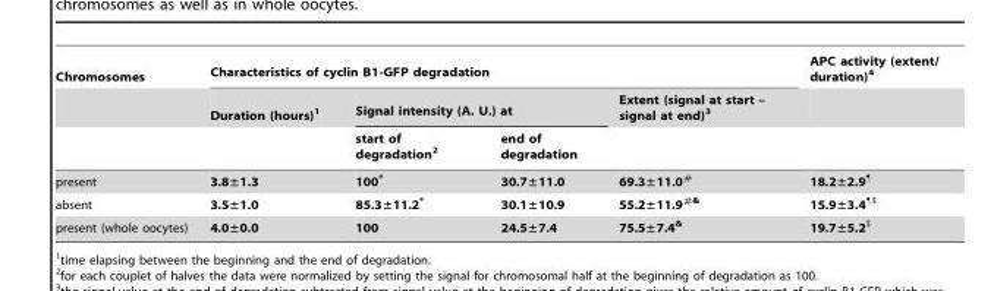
<table><thead><tr><td rowspan="3">Chromosomes</td><td colspan="4">Characteristics of cyclin B1-GFP degradation</td><td rowspan="3">APC activity (extent/ duration)<sup>4</sup></td></tr><tr><td rowspan="2">Duration (hours)<sup>1</sup></td><td colspan="2">Signal intensity (A. U.) at</td><td rowspan="2">Extent (signal at start – signal at end)<sup>3</sup></td></tr><tr><td>start of degradation<sup>2</sup></td><td>end of degradation</td></tr></thead><tbody><tr><td>present</td><td>3.8±1.3</td><td>100*</td><td>30.7±11.0</td><td>69.3±11.0#</td><td>18.2±2.9¶</td></tr><tr><td>absent</td><td>3.5±1.0</td><td>85.3±11.2*</td><td>30.1±10.9</td><td>55.2±11.9#&amp;</td><td>15.9±3.4¶$</td></tr><tr><td>present (whole oocytes)</td><td>4.0±0.0</td><td>100</td><td>24.5±7.4</td><td>75.5±7.4&amp;</td><td>19.7±5.2$</td></tr></tbody></table>